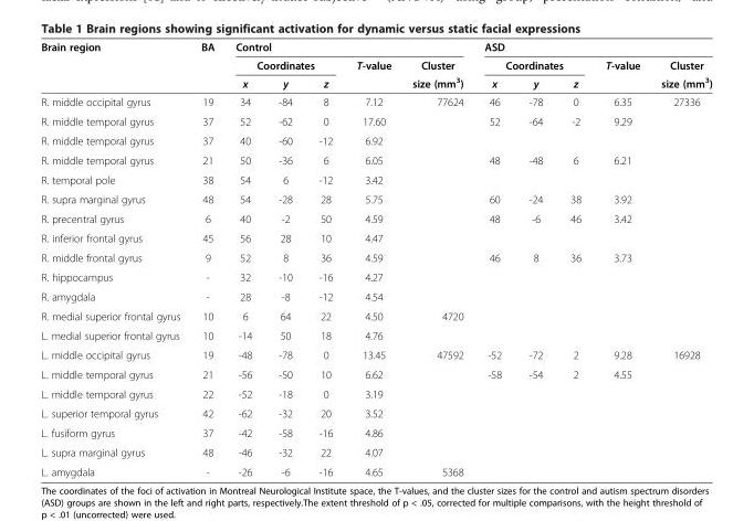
<table><thead><tr><td rowspan="3">Brain region</td><td rowspan="3">BA</td><td colspan="5">Control</td><td colspan="5">ASD</td></tr><tr><td colspan="3">Coordinates</td><td rowspan="2">T-value</td><td rowspan="2">Cluster size (mm<sup>3</sup>)</td><td colspan="3">Coordinates</td><td rowspan="2">T-value</td><td rowspan="2">Cluster size (mm<sup>3</sup>)</td></tr><tr><td>x</td><td>y</td><td>z</td><td>x</td><td>y</td><td>z</td></tr></thead><tbody><tr><td>R. middle occipital gyrus</td><td>19</td><td>34</td><td>-84</td><td>8</td><td>7.12</td><td>77624</td><td>46</td><td>-78</td><td>0</td><td>6.35</td><td>27336</td></tr><tr><td>R. middle temporal gyrus</td><td>37</td><td>52</td><td>-62</td><td>0</td><td>17.60</td><td></td><td>52</td><td>-64</td><td>-2</td><td>9.29</td><td></td></tr><tr><td>R. middle temporal gyrus</td><td>37</td><td>40</td><td>-60</td><td>-12</td><td>6.92</td><td></td><td></td><td></td><td></td><td></td><td></td></tr><tr><td>R. middle temporal gyrus</td><td>21</td><td>50</td><td>-36</td><td>6</td><td>6.05</td><td></td><td>48</td><td>-48</td><td>6</td><td>6.21</td><td></td></tr><tr><td>R. temporal pole</td><td>38</td><td>54</td><td>6</td><td>-12</td><td>3.42</td><td></td><td></td><td></td><td></td><td></td><td></td></tr><tr><td>R. supra marginal gyrus</td><td>48</td><td>54</td><td>-28</td><td>28</td><td>5.75</td><td></td><td>60</td><td>-24</td><td>38</td><td>3.92</td><td></td></tr><tr><td>R. precentral gyrus</td><td>6</td><td>40</td><td>-2</td><td>50</td><td>4.59</td><td></td><td>48</td><td>-6</td><td>46</td><td>3.42</td><td></td></tr><tr><td>R. inferior frontal gyrus</td><td>45</td><td>56</td><td>28</td><td>10</td><td>4.47</td><td></td><td></td><td></td><td></td><td></td><td></td></tr><tr><td>R. middle frontal gyrus</td><td>9</td><td>52</td><td>8</td><td>36</td><td>4.59</td><td></td><td>46</td><td>8</td><td>36</td><td>3.73</td><td></td></tr><tr><td>R. hippocampus</td><td>-</td><td>32</td><td>-10</td><td>-16</td><td>4.27</td><td></td><td></td><td></td><td></td><td></td><td></td></tr><tr><td>R. amygdala</td><td>-</td><td>28</td><td>-8</td><td>-12</td><td>4.54</td><td></td><td></td><td></td><td></td><td></td><td></td></tr><tr><td>R. medial superior frontal gyrus</td><td>10</td><td>6</td><td>64</td><td>22</td><td>4.50</td><td>4720</td><td></td><td></td><td></td><td></td><td></td></tr><tr><td>L. medial superior frontal gyrus</td><td>10</td><td>-14</td><td>50</td><td>18</td><td>4.76</td><td></td><td></td><td></td><td></td><td></td><td></td></tr><tr><td>L. middle occipital gyrus</td><td>19</td><td>-48</td><td>-78</td><td>0</td><td>13.45</td><td>47592</td><td>-52</td><td>-72</td><td>2</td><td>9.28</td><td>16928</td></tr><tr><td>L. middle temporal gyrus</td><td>21</td><td>-56</td><td>-50</td><td>10</td><td>6.62</td><td></td><td>-58</td><td>-54</td><td>2</td><td>4.55</td><td></td></tr><tr><td>L. middle temporal gyrus</td><td>22</td><td>-52</td><td>-18</td><td>0</td><td>3.19</td><td></td><td></td><td></td><td></td><td></td><td></td></tr><tr><td>L. superior temporal gyrus</td><td>42</td><td>-62</td><td>-32</td><td>20</td><td>3.52</td><td></td><td></td><td></td><td></td><td></td><td></td></tr><tr><td>L. fusiform gyrus</td><td>37</td><td>-42</td><td>-58</td><td>-16</td><td>4.86</td><td></td><td></td><td></td><td></td><td></td><td></td></tr><tr><td>L. supra marginal gyrus</td><td>48</td><td>-46</td><td>-32</td><td>22</td><td>4.07</td><td></td><td></td><td></td><td></td><td></td><td></td></tr><tr><td>L. amygdala</td><td>-</td><td>-26</td><td>-6</td><td>-16</td><td>4.65</td><td>5368</td><td></td><td></td><td></td><td></td><td></td></tr></tbody></table>